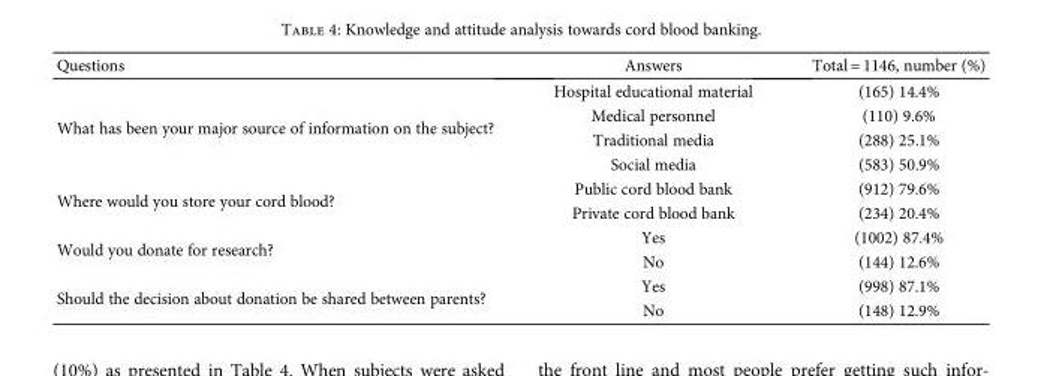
<table><thead><tr><td>Questions</td><td>Answers</td><td>Total = 1146, number (%)</td></tr></thead><tbody><tr><td rowspan="4">What has been your major source of information on the subject?</td><td>Hospital educational material</td><td>(165) 14.4%</td></tr><tr><td>Medical personnel</td><td>(110) 9.6%</td></tr><tr><td>Traditional media</td><td>(288) 25.1%</td></tr><tr><td>Social media</td><td>(583) 50.9%</td></tr><tr><td rowspan="2">Where would you store your cord blood?</td><td>Public cord blood bank</td><td>(912) 79.6%</td></tr><tr><td>Private cord blood bank</td><td>(234) 20.4%</td></tr><tr><td rowspan="2">Would you donate for research?</td><td>Yes</td><td>(1002) 87.4%</td></tr><tr><td>No</td><td>(144) 12.6%</td></tr><tr><td rowspan="2">Should the decision about donation be shared between parents?</td><td>Yes</td><td>(998) 87.1%</td></tr><tr><td>No</td><td>(148) 12.9%</td></tr></tbody></table>